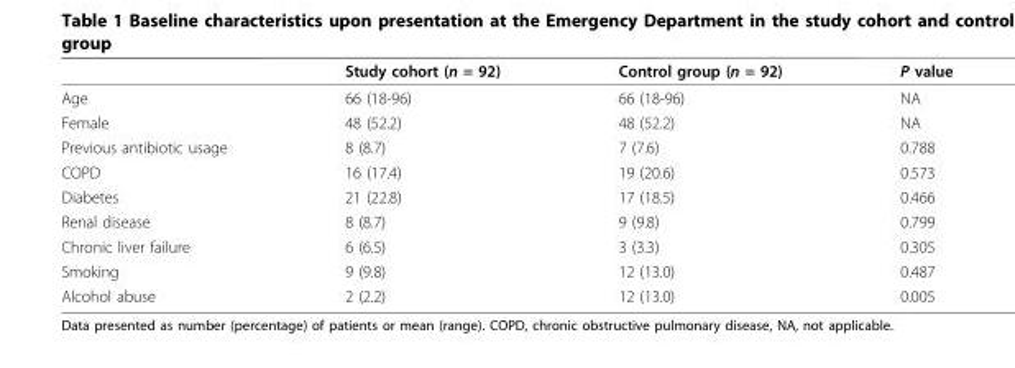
<table><thead><tr><td></td><td>Study cohort (n = 92)</td><td>Control group (n = 92)</td><td>P value</td></tr></thead><tbody><tr><td>Age</td><td>66 (18-96)</td><td>66 (18-96)</td><td>NA</td></tr><tr><td>Female</td><td>48 (52.2)</td><td>48 (52.2)</td><td>NA</td></tr><tr><td>Previous antibiotic usage</td><td>8 (8.7)</td><td>7 (7.6)</td><td>0.788</td></tr><tr><td>COPD</td><td>16 (17.4)</td><td>19 (20.6)</td><td>0.573</td></tr><tr><td>Diabetes</td><td>21 (22.8)</td><td>17 (18.5)</td><td>0.466</td></tr><tr><td>Renal disease</td><td>8 (8.7)</td><td>9 (9.8)</td><td>0.799</td></tr><tr><td>Chronic liver failure</td><td>6 (6.5)</td><td>3 (3.3)</td><td>0.305</td></tr><tr><td>Smoking</td><td>9 (9.8)</td><td>12 (13.0)</td><td>0.487</td></tr><tr><td>Alcohol abuse</td><td>2 (2.2)</td><td>12 (13.0)</td><td>0.005</td></tr></tbody></table>